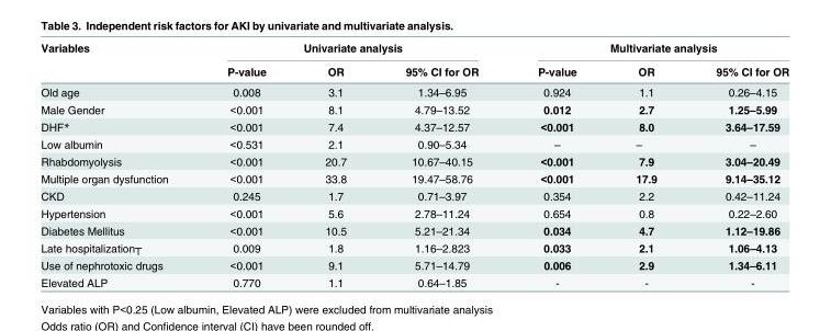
<table><thead><tr><td rowspan="2">Variables</td><td colspan="3">Univariate analysis</td><td colspan="3">Multivariate analysis</td></tr><tr><td>P-value</td><td>OR</td><td>95% CI for OR</td><td>P-value</td><td>OR</td><td>95% CI for OR</td></tr></thead><tbody><tr><td>Old age</td><td>0.008</td><td>3.1</td><td>1.34–6.95</td><td>0.924</td><td>1.1</td><td>0.26–4.15</td></tr><tr><td>Male Gender</td><td>&lt;0.001</td><td>8.1</td><td>4.79–13.52</td><td>0.012</td><td>2.7</td><td>1.25–5.99</td></tr><tr><td>DHF*</td><td>&lt;0.001</td><td>7.4</td><td>4.37–12.57</td><td>&lt;0.001</td><td>8.0</td><td>3.64–17.59</td></tr><tr><td>Low albumin</td><td>&lt;0.531</td><td>2.1</td><td>0.90–5.34</td><td>–</td><td>–</td><td>–</td></tr><tr><td>Rhabdomyolysis</td><td>&lt;0.001</td><td>20.7</td><td>10.67–40.15</td><td>&lt;0.001</td><td>7.9</td><td>3.04–20.49</td></tr><tr><td>Multiple organ dysfunction</td><td>&lt;0.001</td><td>33.8</td><td>19.47–58.76</td><td>&lt;0.001</td><td>17.9</td><td>9.14–35.12</td></tr><tr><td>CKD</td><td>0.245</td><td>1.7</td><td>0.71–3.97</td><td>0.354</td><td>2.2</td><td>0.42–11.24</td></tr><tr><td>Hypertension</td><td>&lt;0.001</td><td>5.6</td><td>2.78–11.24</td><td>0.654</td><td>0.8</td><td>0.22–2.60</td></tr><tr><td>Diabetes Mellitus</td><td>&lt;0.001</td><td>10.5</td><td>5.21–21.34</td><td>0.034</td><td>4.7</td><td>1.12–19.86</td></tr><tr><td>Late hospitalization┬</td><td>0.009</td><td>1.8</td><td>1.16–2.823</td><td>0.033</td><td>2.1</td><td>1.06–4.13</td></tr><tr><td>Use of nephrotoxic drugs</td><td>&lt;0.001</td><td>9.1</td><td>5.71–14.79</td><td>0.006</td><td>2.9</td><td>1.34–6.11</td></tr><tr><td>Elevated ALP</td><td>0.770</td><td>1.1</td><td>0.64–1.85</td><td>-</td><td>-</td><td>-</td></tr></tbody></table>